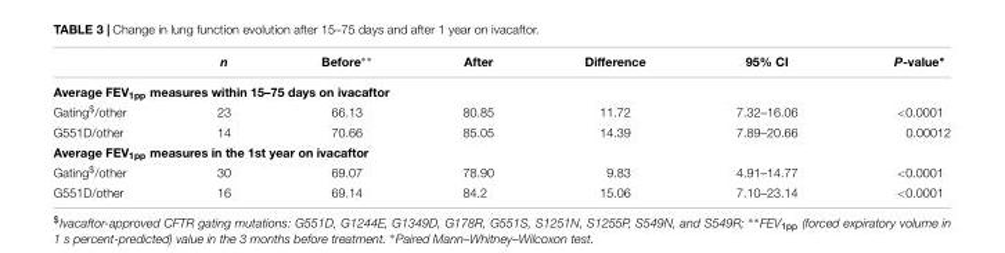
<table><thead><tr><td></td><td>n</td><td>Before∗∗</td><td>After</td><td>Difference</td><td>95% CI</td><td>P-value∗</td></tr></thead><tbody><tr><td colspan="7">Average FEV<sub>1pp</sub> measures within 15–75 days on ivacaftor</td></tr><tr><td>Gating<sup>$</sup>/other</td><td>23</td><td>66.13</td><td>80.85</td><td>11.72</td><td>7.32–16.06</td><td>&lt;0.0001</td></tr><tr><td>G551D/other</td><td>14</td><td>70.66</td><td>85.05</td><td>14.39</td><td>7.89–20.66</td><td>0.00012</td></tr><tr><td colspan="7">Average FEV<sub>1pp</sub> measures in the 1st year on ivacaftor</td></tr><tr><td>Gating<sup>$</sup>/other</td><td>30</td><td>69.07</td><td>78.90</td><td>9.83</td><td>4.91–14.77</td><td>&lt;0.0001</td></tr><tr><td>G551D/other</td><td>16</td><td>69.14</td><td>84.2</td><td>15.06</td><td>7.10–23.14</td><td>&lt;0.0001</td></tr></tbody></table>